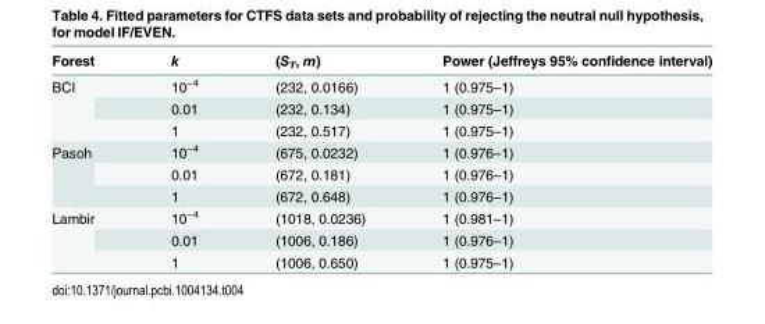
<table><thead><tr><td>Forest</td><td>k</td><td>(S<sub>T</sub>, m)</td><td>Power (Jeffreys 95% confidence interval)</td></tr></thead><tbody><tr><td rowspan="3">BCI</td><td>10<sup>−4</sup></td><td>(232, 0.0166)</td><td>1 (0.975–1)</td></tr><tr><td>0.01</td><td>(232, 0.134)</td><td>1 (0.975–1)</td></tr><tr><td>1</td><td>(232, 0.517)</td><td>1 (0.975–1)</td></tr><tr><td rowspan="3">Pasoh</td><td>10<sup>−4</sup></td><td>(675, 0.0232)</td><td>1 (0.976–1)</td></tr><tr><td>0.01</td><td>(672, 0.181)</td><td>1 (0.976–1)</td></tr><tr><td>1</td><td>(672, 0.648)</td><td>1 (0.976–1)</td></tr><tr><td rowspan="3">Lambir</td><td>10<sup>−4</sup></td><td>(1018, 0.0236)</td><td>1 (0.981–1)</td></tr><tr><td>0.01</td><td>(1006, 0.186)</td><td>1 (0.976–1)</td></tr><tr><td>1</td><td>(1006, 0.650)</td><td>1 (0.975–1)</td></tr></tbody></table>